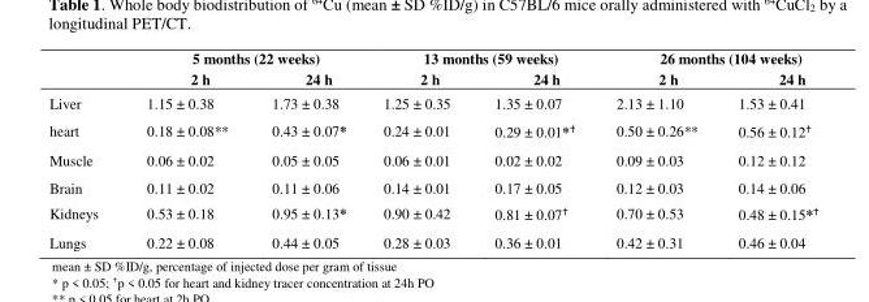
<table><thead><tr><td rowspan="2"></td><td colspan="2">5 months (22 weeks)</td><td colspan="2">13 months (59 weeks)</td><td colspan="2">26 months (104 weeks)</td></tr><tr><td>2 h</td><td>24 h</td><td>2 h</td><td>24 h</td><td>2 h</td><td>24 h</td></tr></thead><tbody><tr><td>Liver</td><td>1.15 ± 0.38</td><td>1.73 ± 0.38</td><td>1.25 ± 0.35</td><td>1.35 ± 0.07</td><td>2.13 ± 1.10</td><td>1.53 ± 0.41</td></tr><tr><td>heart</td><td>0.18 ± 0.08**</td><td>0.43 ± 0.07*</td><td>0.24 ± 0.01</td><td>0.29 ± 0.01*✝</td><td>0.50 ± 0.26**</td><td>0.56 ± 0.12✝</td></tr><tr><td>Muscle</td><td>0.06 ± 0.02</td><td>0.05 ± 0.05</td><td>0.06 ± 0.01</td><td>0.02 ± 0.02</td><td>0.09 ± 0.03</td><td>0.12 ± 0.12</td></tr><tr><td>Brain</td><td>0.11 ± 0.02</td><td>0.11 ± 0.06</td><td>0.14 ± 0.01</td><td>0.17 ± 0.05</td><td>0.12 ± 0.03</td><td>0.14 ± 0.06</td></tr><tr><td>Kidneys</td><td>0.53 ± 0.18</td><td>0.95 ± 0.13*</td><td>0.90 ± 0.42</td><td>0.81 ± 0.07✝</td><td>0.70 ± 0.53</td><td>0.48 ± 0.15*✝</td></tr><tr><td>Lungs</td><td>0.22 ± 0.08</td><td>0.44 ± 0.05</td><td>0.28 ± 0.03</td><td>0.36 ± 0.01</td><td>0.42 ± 0.31</td><td>0.46 ± 0.04</td></tr></tbody></table>